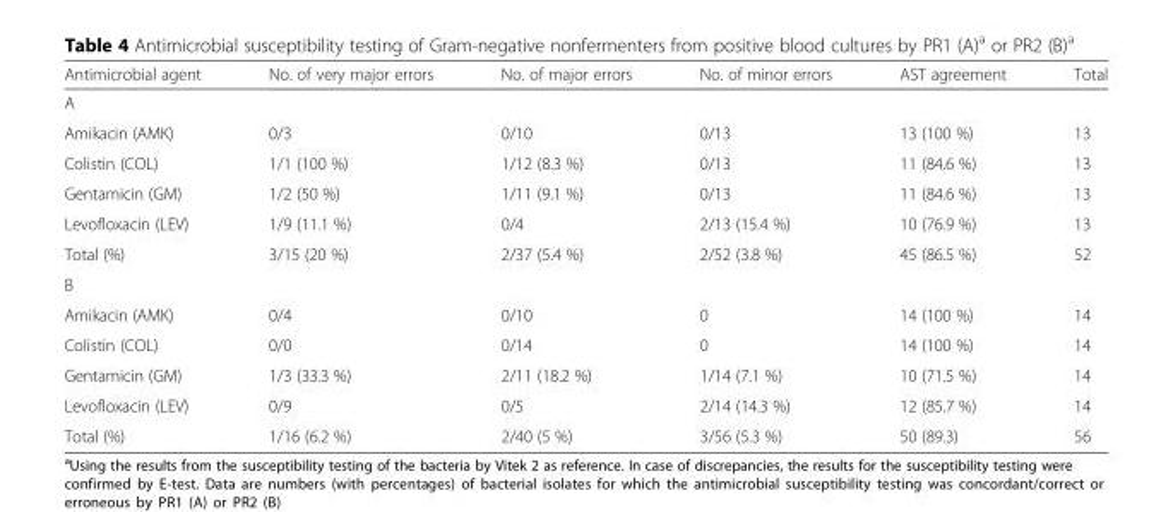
<table><thead><tr><td>Antimicrobial agent</td><td>No. of very major errors</td><td>No. of major errors</td><td>No. of minor errors</td><td>AST agreement</td><td>Total</td></tr></thead><tbody><tr><td colspan="6">A</td></tr><tr><td>Amikacin (AMK)</td><td>0/3</td><td>0/10</td><td>0/13</td><td>13 (100 %)</td><td>13</td></tr><tr><td>Colistin (COL)</td><td>1/1 (100 %)</td><td>1/12 (8.3 %)</td><td>0/13</td><td>11 (84.6 %)</td><td>13</td></tr><tr><td>Gentamicin (GM)</td><td>1/2 (50 %)</td><td>1/11 (9.1 %)</td><td>0/13</td><td>11 (84.6 %)</td><td>13</td></tr><tr><td>Levofloxacin (LEV)</td><td>1/9 (11.1 %)</td><td>0/4</td><td>2/13 (15.4 %)</td><td>10 (76.9 %)</td><td>13</td></tr><tr><td>Total (%)</td><td>3/15 (20 %)</td><td>2/37 (5.4 %)</td><td>2/52 (3.8 %)</td><td>45 (86.5 %)</td><td>52</td></tr><tr><td colspan="6">B</td></tr><tr><td>Amikacin (AMK)</td><td>0/4</td><td>0/10</td><td>0</td><td>14 (100 %)</td><td>14</td></tr><tr><td>Colistin (COL)</td><td>0/0</td><td>0/14</td><td>0</td><td>14 (100 %)</td><td>14</td></tr><tr><td>Gentamicin (GM)</td><td>1/3 (33.3 %)</td><td>2/11 (18.2 %)</td><td>1/14 (7.1 %)</td><td>10 (71.5 %)</td><td>14</td></tr><tr><td>Levofloxacin (LEV)</td><td>0/9</td><td>0/5</td><td>2/14 (14.3 %)</td><td>12 (85.7 %)</td><td>14</td></tr><tr><td>Total (%)</td><td>1/16 (6.2 %)</td><td>2/40 (5 %)</td><td>3/56 (5.3 %)</td><td>50 (89.3)</td><td>56</td></tr></tbody></table>